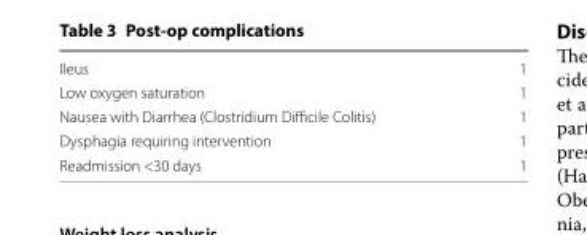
<table><tbody><tr><td>Ileus</td><td>1</td></tr><tr><td>Low oxygen saturation</td><td>1</td></tr><tr><td>Nausea with Diarrhea (Clostridium Difficile Colitis)</td><td>1</td></tr><tr><td>Dysphagia requiring intervention</td><td>1</td></tr><tr><td>Readmission &lt;30 days</td><td>1</td></tr></tbody></table>